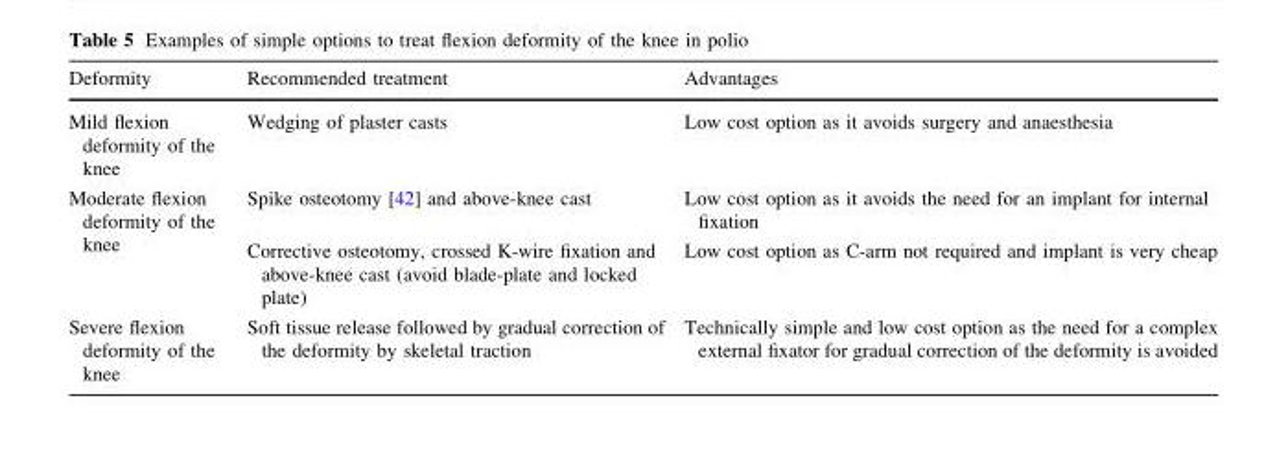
<table><thead><tr><td>Deformity</td><td>Recommended treatment</td><td>Advantages</td></tr></thead><tbody><tr><td>Mild flexion deformity of the knee</td><td>Wedging of plaster casts</td><td>Low cost option as it avoids surgery and anaesthesia</td></tr><tr><td rowspan="2">Moderate flexion deformity of the knee</td><td>Spike osteotomy [42] and above-knee cast</td><td>Low cost option as it avoids the need for an implant for internal fixation</td></tr><tr><td>Corrective osteotomy, crossed K-wire fixation and above-knee cast (avoid blade-plate and locked plate)</td><td>Low cost option as C-arm not required and implant is very cheap</td></tr><tr><td>Severe flexion deformity of the knee</td><td>Soft tissue release followed by gradual correction of the deformity by skeletal traction</td><td>Technically simple and low cost option as the need for a complex external fixator for gradual correction of the deformity is avoided</td></tr></tbody></table>